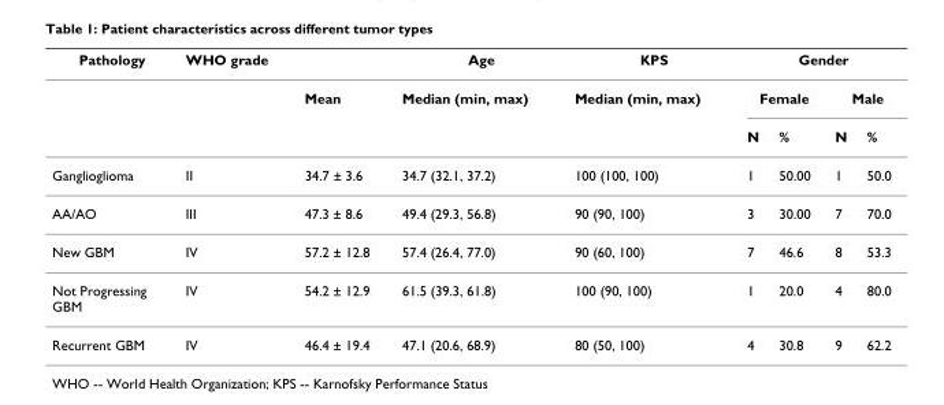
<table><thead><tr><td rowspan="3">Pathology</td><td rowspan="3">WHO grade</td><td rowspan="3">Mean</td><td rowspan="3">Age Median (min, max)</td><td rowspan="3">KPS Median (min, max)</td><td colspan="4">Gender</td></tr><tr><td colspan="2">Female</td><td colspan="2">Male</td></tr><tr><td>N</td><td>%</td><td>N</td><td>%</td></tr></thead><tbody><tr><td>Ganglioglioma</td><td>II</td><td>34.7 ± 3.6</td><td>34.7 (32.1, 37.2)</td><td>100 (100, 100)</td><td>1</td><td>50.00</td><td>1</td><td>50.0</td></tr><tr><td>AA/AO</td><td>III</td><td>47.3 ± 8.6</td><td>49.4 (29.3, 56.8)</td><td>90 (90, 100)</td><td>3</td><td>30.00</td><td>7</td><td>70.0</td></tr><tr><td>New GBM</td><td>IV</td><td>57.2 ± 12.8</td><td>57.4 (26.4, 77.0)</td><td>90 (60, 100)</td><td>7</td><td>46.6</td><td>8</td><td>53.3</td></tr><tr><td>Not Progressing GBM</td><td>IV</td><td>54.2 ± 12.9</td><td>61.5 (39.3, 61.8)</td><td>100 (90, 100)</td><td>1</td><td>20.0</td><td>4</td><td>80.0</td></tr><tr><td>Recurrent GBM</td><td>IV</td><td>46.4 ± 19.4</td><td>47.1 (20.6, 68.9)</td><td>80 (50, 100)</td><td>4</td><td>30.8</td><td>9</td><td>62.2</td></tr></tbody></table>